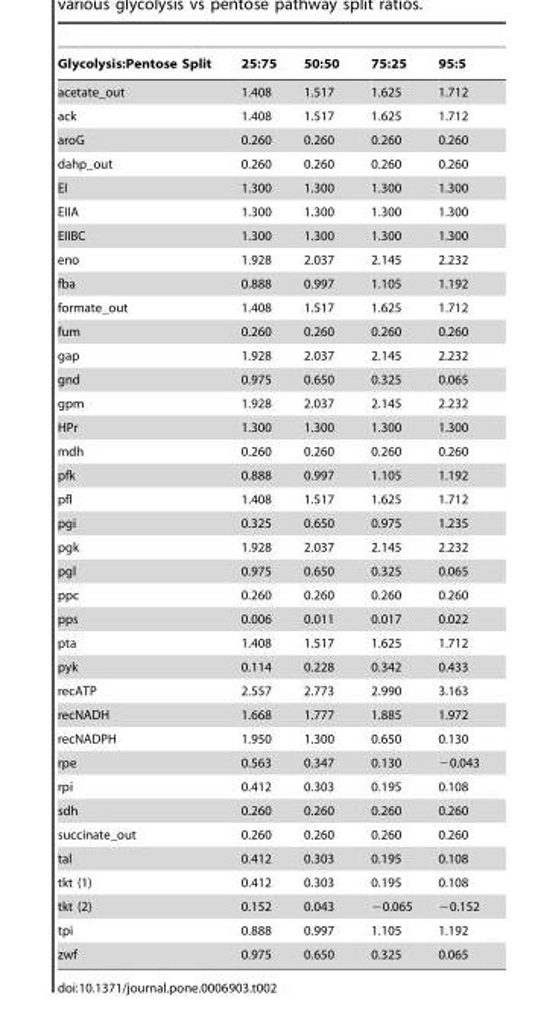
<table><thead><tr><td>Glycolysis:Pentose Split</td><td>25:75</td><td>50:50</td><td>75:25</td><td>95:5</td></tr></thead><tbody><tr><td>acetate_out</td><td>1.408</td><td>1.517</td><td>1.625</td><td>1.712</td></tr><tr><td>ack</td><td>1.408</td><td>1.517</td><td>1.625</td><td>1.712</td></tr><tr><td>aroG</td><td>0.260</td><td>0.260</td><td>0.260</td><td>0.260</td></tr><tr><td>dahp_out</td><td>0.260</td><td>0.260</td><td>0.260</td><td>0.260</td></tr><tr><td>EI</td><td>1.300</td><td>1.300</td><td>1.300</td><td>1.300</td></tr><tr><td>EIIA</td><td>1.300</td><td>1.300</td><td>1.300</td><td>1.300</td></tr><tr><td>EIIBC</td><td>1.300</td><td>1.300</td><td>1.300</td><td>1.300</td></tr><tr><td>eno</td><td>1.928</td><td>2.037</td><td>2.145</td><td>2.232</td></tr><tr><td>fba</td><td>0.888</td><td>0.997</td><td>1.105</td><td>1.192</td></tr><tr><td>formate_out</td><td>1.408</td><td>1.517</td><td>1.625</td><td>1.712</td></tr><tr><td>fum</td><td>0.260</td><td>0.260</td><td>0.260</td><td>0.260</td></tr><tr><td>gap</td><td>1.928</td><td>2.037</td><td>2.145</td><td>2.232</td></tr><tr><td>gnd</td><td>0.975</td><td>0.650</td><td>0.325</td><td>0.065</td></tr><tr><td>gpm</td><td>1.928</td><td>2.037</td><td>2.145</td><td>2.232</td></tr><tr><td>HPr</td><td>1.300</td><td>1.300</td><td>1.300</td><td>1.300</td></tr><tr><td>mdh</td><td>0.260</td><td>0.260</td><td>0.260</td><td>0.260</td></tr><tr><td>pfk</td><td>0.888</td><td>0.997</td><td>1.105</td><td>1.192</td></tr><tr><td>pfl</td><td>1.408</td><td>1.517</td><td>1.625</td><td>1.712</td></tr><tr><td>pgi</td><td>0.325</td><td>0.650</td><td>0.975</td><td>1.235</td></tr><tr><td>pgk</td><td>1.928</td><td>2.037</td><td>2.145</td><td>2.232</td></tr><tr><td>pgl</td><td>0.975</td><td>0.650</td><td>0.325</td><td>0.065</td></tr><tr><td>ppc</td><td>0.260</td><td>0.260</td><td>0.260</td><td>0.260</td></tr><tr><td>pps</td><td>0.006</td><td>0.011</td><td>0.017</td><td>0.022</td></tr><tr><td>pta</td><td>1.408</td><td>1.517</td><td>1.625</td><td>1.712</td></tr><tr><td>pyk</td><td>0.114</td><td>0.228</td><td>0.342</td><td>0.433</td></tr><tr><td>recATP</td><td>2.557</td><td>2.773</td><td>2.990</td><td>3.163</td></tr><tr><td>recNADH</td><td>1.668</td><td>1.777</td><td>1.885</td><td>1.972</td></tr><tr><td>recNADPH</td><td>1.950</td><td>1.300</td><td>0.650</td><td>0.130</td></tr><tr><td>rpe</td><td>0.563</td><td>0.347</td><td>0.130</td><td>−0.043</td></tr><tr><td>rpi</td><td>0.412</td><td>0.303</td><td>0.195</td><td>0.108</td></tr><tr><td>sdh</td><td>0.260</td><td>0.260</td><td>0.260</td><td>0.260</td></tr><tr><td>succinate_out</td><td>0.260</td><td>0.260</td><td>0.260</td><td>0.260</td></tr><tr><td>tal</td><td>0.412</td><td>0.303</td><td>0.195</td><td>0.108</td></tr><tr><td>tkt (1)</td><td>0.412</td><td>0.303</td><td>0.195</td><td>0.108</td></tr><tr><td>tkt (2)</td><td>0.152</td><td>0.043</td><td>−0.065</td><td>−0.152</td></tr><tr><td>tpi</td><td>0.888</td><td>0.997</td><td>1.105</td><td>1.192</td></tr><tr><td>zwf</td><td>0.975</td><td>0.650</td><td>0.325</td><td>0.065</td></tr></tbody></table>